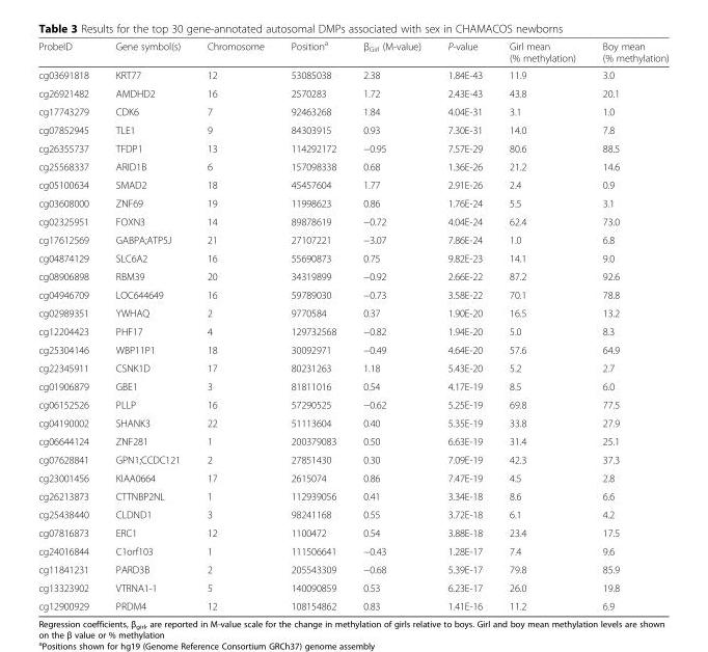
<table><thead><tr><td>ProbeID</td><td>Gene symbol(s)</td><td>Chromosome</td><td>Position<sup>a</sup></td><td>β<sub>Girl</sub> (M-value)</td><td>P-value</td><td>Girl mean (% methylation)</td><td>Boy mean (% methylation)</td></tr></thead><tbody><tr><td>cg03691818</td><td>KRT77</td><td>12</td><td>53085038</td><td>2.38</td><td>1.84E-43</td><td>11.9</td><td>3.0</td></tr><tr><td>cg26921482</td><td>AMDHD2</td><td>16</td><td>2570283</td><td>1.72</td><td>2.43E-43</td><td>43.8</td><td>20.1</td></tr><tr><td>cg17743279</td><td>CDK6</td><td>7</td><td>92463268</td><td>1.84</td><td>4.04E-31</td><td>3.1</td><td>1.0</td></tr><tr><td>cg07852945</td><td>TLE1</td><td>9</td><td>84303915</td><td>0.93</td><td>7.30E-31</td><td>14.0</td><td>7.8</td></tr><tr><td>cg26355737</td><td>TFDP1</td><td>13</td><td>114292172</td><td>−0.95</td><td>7.57E-29</td><td>80.6</td><td>88.5</td></tr><tr><td>cg25568337</td><td>ARID1B</td><td>6</td><td>157098338</td><td>0.68</td><td>1.36E-26</td><td>21.2</td><td>14.6</td></tr><tr><td>cg05100634</td><td>SMAD2</td><td>18</td><td>45457604</td><td>1.77</td><td>2.91E-26</td><td>2.4</td><td>0.9</td></tr><tr><td>cg03608000</td><td>ZNF69</td><td>19</td><td>11998623</td><td>0.86</td><td>1.76E-24</td><td>5.5</td><td>3.1</td></tr><tr><td>cg02325951</td><td>FOXN3</td><td>14</td><td>89878619</td><td>−0.72</td><td>4.04E-24</td><td>62.4</td><td>73.0</td></tr><tr><td>cg17612569</td><td>GABPA;ATP5J</td><td>21</td><td>27107221</td><td>−3.07</td><td>7.86E-24</td><td>1.0</td><td>6.8</td></tr><tr><td>cg04874129</td><td>SLC6A2</td><td>16</td><td>55690873</td><td>0.75</td><td>9.82E-23</td><td>14.1</td><td>9.0</td></tr><tr><td>cg08906898</td><td>RBM39</td><td>20</td><td>34319899</td><td>−0.92</td><td>2.66E-22</td><td>87.2</td><td>92.6</td></tr><tr><td>cg04946709</td><td>LOC644649</td><td>16</td><td>59789030</td><td>−0.73</td><td>3.58E-22</td><td>70.1</td><td>78.8</td></tr><tr><td>cg02989351</td><td>YWHAQ</td><td>2</td><td>9770584</td><td>0.37</td><td>1.90E-20</td><td>16.5</td><td>13.2</td></tr><tr><td>cg12204423</td><td>PHF17</td><td>4</td><td>129732568</td><td>−0.82</td><td>1.94E-20</td><td>5.0</td><td>8.3</td></tr><tr><td>cg25304146</td><td>WBP11P1</td><td>18</td><td>30092971</td><td>−0.49</td><td>4.64E-20</td><td>57.6</td><td>64.9</td></tr><tr><td>cg22345911</td><td>CSNK1D</td><td>17</td><td>80231263</td><td>1.18</td><td>5.43E-20</td><td>5.2</td><td>2.7</td></tr><tr><td>cg01906879</td><td>GBE1</td><td>3</td><td>81811016</td><td>0.54</td><td>4.17E-19</td><td>8.5</td><td>6.0</td></tr><tr><td>cg06152526</td><td>PLLP</td><td>16</td><td>57290525</td><td>−0.62</td><td>5.25E-19</td><td>69.8</td><td>77.5</td></tr><tr><td>cg04190002</td><td>SHANK3</td><td>22</td><td>51113604</td><td>0.40</td><td>5.35E-19</td><td>33.8</td><td>27.9</td></tr><tr><td>cg06644124</td><td>ZNF281</td><td>1</td><td>200379083</td><td>0.50</td><td>6.63E-19</td><td>31.4</td><td>25.1</td></tr><tr><td>cg07628841</td><td>GPN1;CCDC121</td><td>2</td><td>27851430</td><td>0.30</td><td>7.09E-19</td><td>42.3</td><td>37.3</td></tr><tr><td>cg23001456</td><td>KIAA0664</td><td>17</td><td>2615074</td><td>0.86</td><td>7.47E-19</td><td>4.5</td><td>2.8</td></tr><tr><td>cg26213873</td><td>CTTNBP2NL</td><td>1</td><td>112939056</td><td>0.41</td><td>3.34E-18</td><td>8.6</td><td>6.6</td></tr><tr><td>cg25438440</td><td>CLDND1</td><td>3</td><td>98241168</td><td>0.55</td><td>3.72E-18</td><td>6.1</td><td>4.2</td></tr><tr><td>cg07816873</td><td>ERC1</td><td>12</td><td>1100472</td><td>0.54</td><td>3.88E-18</td><td>23.4</td><td>17.5</td></tr><tr><td>cg24016844</td><td>C1orf103</td><td>1</td><td>111506641</td><td>−0.43</td><td>1.28E-17</td><td>7.4</td><td>9.6</td></tr><tr><td>cg11841231</td><td>PARD3B</td><td>2</td><td>205543309</td><td>−0.68</td><td>5.39E-17</td><td>79.8</td><td>85.9</td></tr><tr><td>cg13323902</td><td>VTRNA1-1</td><td>5</td><td>140090859</td><td>0.53</td><td>6.23E-17</td><td>26.0</td><td>19.8</td></tr><tr><td>cg12900929</td><td>PRDM4</td><td>12</td><td>108154862</td><td>0.83</td><td>1.41E-16</td><td>11.2</td><td>6.9</td></tr></tbody></table>